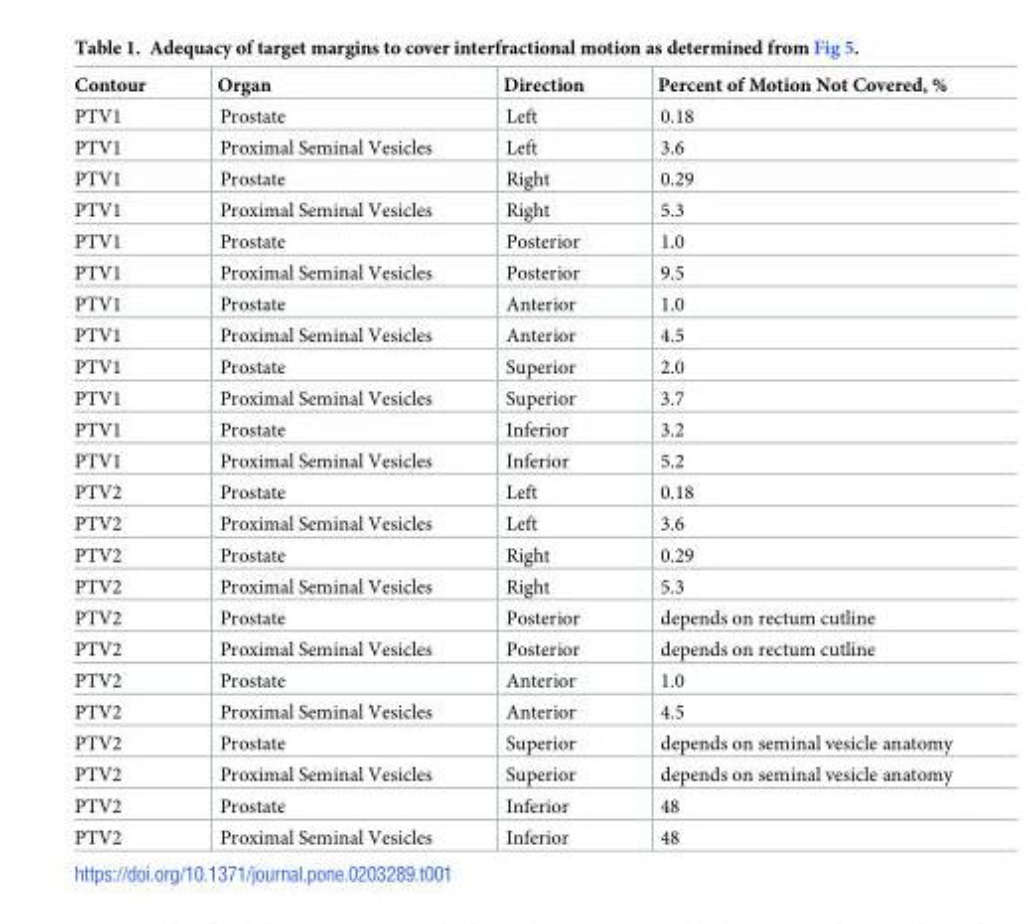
<table><thead><tr><td>Contour</td><td>Organ</td><td>Direction</td><td>Percent of Motion Not Covered, %</td></tr></thead><tbody><tr><td>PTV1</td><td>Prostate</td><td>Left</td><td>0.18</td></tr><tr><td>PTV1</td><td>Proximal Seminal Vesicles</td><td>Left</td><td>3.6</td></tr><tr><td>PTV1</td><td>Prostate</td><td>Right</td><td>0.29</td></tr><tr><td>PTV1</td><td>Proximal Seminal Vesicles</td><td>Right</td><td>5.3</td></tr><tr><td>PTV1</td><td>Prostate</td><td>Posterior</td><td>1.0</td></tr><tr><td>PTV1</td><td>Proximal Seminal Vesicles</td><td>Posterior</td><td>9.5</td></tr><tr><td>PTV1</td><td>Prostate</td><td>Anterior</td><td>1.0</td></tr><tr><td>PTV1</td><td>Proximal Seminal Vesicles</td><td>Anterior</td><td>4.5</td></tr><tr><td>PTV1</td><td>Prostate</td><td>Superior</td><td>2.0</td></tr><tr><td>PTV1</td><td>Proximal Seminal Vesicles</td><td>Superior</td><td>3.7</td></tr><tr><td>PTV1</td><td>Prostate</td><td>Inferior</td><td>3.2</td></tr><tr><td>PTV1</td><td>Proximal Seminal Vesicles</td><td>Inferior</td><td>5.2</td></tr><tr><td>PTV2</td><td>Prostate</td><td>Left</td><td>0.18</td></tr><tr><td>PTV2</td><td>Proximal Seminal Vesicles</td><td>Left</td><td>3.6</td></tr><tr><td>PTV2</td><td>Prostate</td><td>Right</td><td>0.29</td></tr><tr><td>PTV2</td><td>Proximal Seminal Vesicles</td><td>Right</td><td>5.3</td></tr><tr><td>PTV2</td><td>Prostate</td><td>Posterior</td><td>depends on rectum cutline</td></tr><tr><td>PTV2</td><td>Proximal Seminal Vesicles</td><td>Posterior</td><td>depends on rectum cutline</td></tr><tr><td>PTV2</td><td>Prostate</td><td>Anterior</td><td>1.0</td></tr><tr><td>PTV2</td><td>Proximal Seminal Vesicles</td><td>Anterior</td><td>4.5</td></tr><tr><td>PTV2</td><td>Prostate</td><td>Superior</td><td>depends on seminal vesicle anatomy</td></tr><tr><td>PTV2</td><td>Proximal Seminal Vesicles</td><td>Superior</td><td>depends on seminal vesicle anatomy</td></tr><tr><td>PTV2</td><td>Prostate</td><td>Inferior</td><td>48</td></tr><tr><td>PTV2</td><td>Proximal Seminal Vesicles</td><td>Inferior</td><td>48</td></tr></tbody></table>